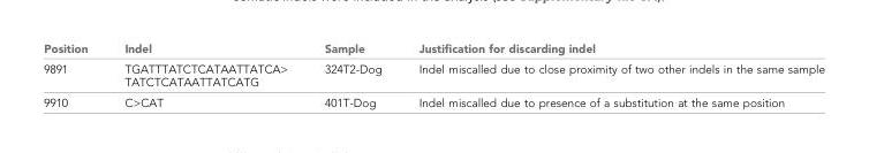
<table><thead><tr><td>Position</td><td>Indel</td><td>Sample</td><td>Justification for discarding indel</td></tr></thead><tbody><tr><td>9891</td><td>TGATTTATCTCATAATTATCA&gt; TATCTCATAATTATCATG</td><td>324T2-Dog</td><td>Indel miscalled due to close proximity of two other indels in the same sample</td></tr><tr><td>9910</td><td>C&gt;CAT</td><td>401T-Dog</td><td>Indel miscalled due to presence of a substitution at the same position</td></tr></tbody></table>